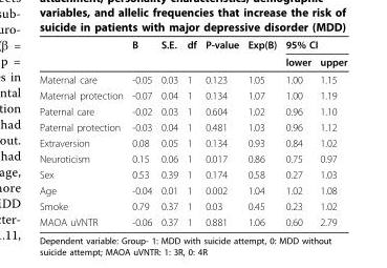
<table><thead><tr><td rowspan="2"></td><td rowspan="2">B</td><td rowspan="2">S.E.</td><td rowspan="2">df</td><td rowspan="2">P-value</td><td rowspan="2">Exp(B)</td><td colspan="2">95% CI</td></tr><tr><td>lower</td><td>upper</td></tr></thead><tbody><tr><td>Maternal care</td><td>-0.05</td><td>0.03</td><td>1</td><td>0.123</td><td>1.05</td><td>1.00</td><td>1.15</td></tr><tr><td>Maternal protection</td><td>-0.07</td><td>0.04</td><td>1</td><td>0.134</td><td>1.07</td><td>1.00</td><td>1.19</td></tr><tr><td>Paternal care</td><td>-0.02</td><td>0.03</td><td>1</td><td>0.604</td><td>1.02</td><td>0.96</td><td>1.10</td></tr><tr><td>Paternal protection</td><td>-0.03</td><td>0.04</td><td>1</td><td>0.481</td><td>1.03</td><td>0.96</td><td>1.12</td></tr><tr><td>Extraversion</td><td>0.08</td><td>0.05</td><td>1</td><td>0.134</td><td>0.93</td><td>0.84</td><td>1.02</td></tr><tr><td>Neuroticism</td><td>0.15</td><td>0.06</td><td>1</td><td>0.017</td><td>0.86</td><td>0.75</td><td>0.97</td></tr><tr><td>Sex</td><td>0.53</td><td>0.39</td><td>1</td><td>0.174</td><td>0.58</td><td>0.27</td><td>1.03</td></tr><tr><td>Age</td><td>-0.04</td><td>0.01</td><td>1</td><td>0.002</td><td>1.04</td><td>1.02</td><td>1.08</td></tr><tr><td>Smoke</td><td>0.79</td><td>0.37</td><td>1</td><td>0.03</td><td>0.45</td><td>0.23</td><td>1.02</td></tr><tr><td>MAOA uVNTR</td><td>-0.06</td><td>0.37</td><td>1</td><td>0.881</td><td>1.06</td><td>0.60</td><td>2.79</td></tr></tbody></table>